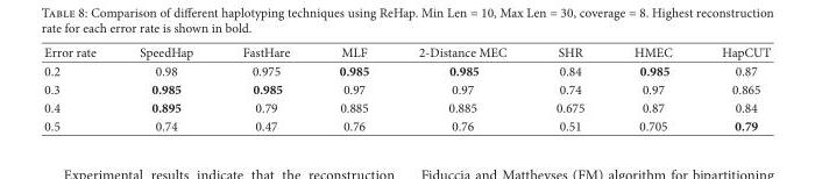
<table><thead><tr><td>Error rate</td><td>SpeedHap</td><td>FastHare</td><td>MLF</td><td>2-Distance MEC</td><td>SHR</td><td>HMEC</td><td>HapCUT</td></tr></thead><tbody><tr><td>0.2</td><td>0.98</td><td>0.975</td><td>0.985</td><td>0.985</td><td>0.84</td><td>0.985</td><td>0.87</td></tr><tr><td>0.3</td><td>0.985</td><td>0.985</td><td>0.97</td><td>0.97</td><td>0.74</td><td>0.97</td><td>0.865</td></tr><tr><td>0.4</td><td>0.895</td><td>0.79</td><td>0.885</td><td>0.885</td><td>0.675</td><td>0.87</td><td>0.84</td></tr><tr><td>0.5</td><td>0.74</td><td>0.47</td><td>0.76</td><td>0.76</td><td>0.51</td><td>0.705</td><td>0.79</td></tr></tbody></table>